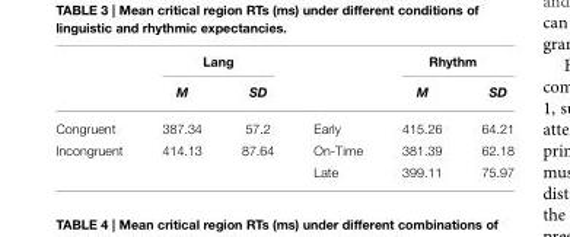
<table><thead><tr><td rowspan="2"></td><td colspan="2">Lang</td><td rowspan="2"></td><td colspan="2">Rhythm</td></tr><tr><td>M</td><td>SD</td><td>M</td><td>SD</td></tr></thead><tbody><tr><td>Congruent</td><td>387.34</td><td>57.2</td><td>Early</td><td>415.26</td><td>64.21</td></tr><tr><td>Incongruent</td><td>414.13</td><td>87.64</td><td>On-Time</td><td>381.39</td><td>62.18</td></tr><tr><td colspan="3"></td><td>Late</td><td>399.11</td><td>75.97</td></tr></tbody></table>